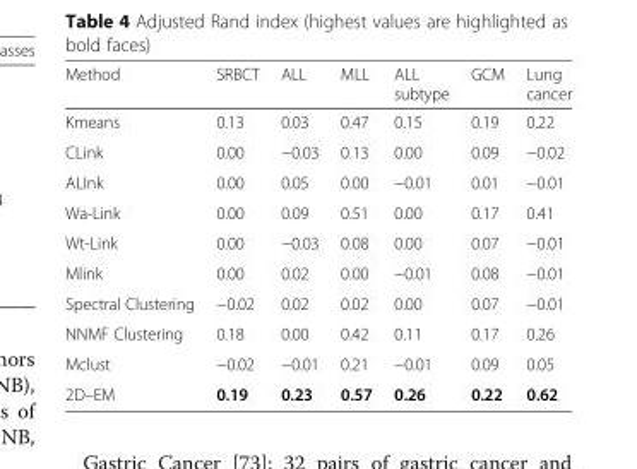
<table><thead><tr><td>Method</td><td>SRBCT</td><td>ALL</td><td>MLL</td><td>ALL subtype</td><td>GCM</td><td>Lung cancer</td></tr></thead><tbody><tr><td>Kmeans</td><td>0.13</td><td>0.03</td><td>0.47</td><td>0.15</td><td>0.19</td><td>0.22</td></tr><tr><td>CLink</td><td>0.00</td><td>−0.03</td><td>0.13</td><td>0.00</td><td>0.09</td><td>−0.02</td></tr><tr><td>ALInk</td><td>0.00</td><td>0.05</td><td>0.00</td><td>−0.01</td><td>0.01</td><td>−0.01</td></tr><tr><td>Wa-Link</td><td>0.00</td><td>0.09</td><td>0.51</td><td>0.00</td><td>0.17</td><td>0.41</td></tr><tr><td>Wt-Link</td><td>0.00</td><td>−0.03</td><td>0.08</td><td>0.00</td><td>0.07</td><td>−0.01</td></tr><tr><td>Mlink</td><td>0.00</td><td>0.02</td><td>0.00</td><td>−0.01</td><td>0.08</td><td>−0.01</td></tr><tr><td>Spectral Clustering</td><td>−0.02</td><td>0.02</td><td>0.02</td><td>0.00</td><td>0.07</td><td>−0.01</td></tr><tr><td>NNMF Clustering</td><td>0.18</td><td>0.00</td><td>0.42</td><td>0.11</td><td>0.17</td><td>0.26</td></tr><tr><td>Mclust</td><td>−0.02</td><td>−0.01</td><td>0.21</td><td>−0.01</td><td>0.09</td><td>0.05</td></tr><tr><td>2D–EM</td><td>0.19</td><td>0.23</td><td>0.57</td><td>0.26</td><td>0.22</td><td>0.62</td></tr></tbody></table>